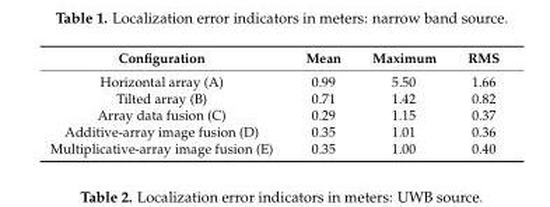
<table><thead><tr><td>Configuration</td><td>Mean</td><td>Maximum</td><td>RMS</td></tr></thead><tbody><tr><td>Horizontal array (A)</td><td>0.99</td><td>5.50</td><td>1.66</td></tr><tr><td>Tilted array (B)</td><td>0.71</td><td>1.42</td><td>0.82</td></tr><tr><td>Array data fusion (C)</td><td>0.29</td><td>1.15</td><td>0.37</td></tr><tr><td>Additive-array image fusion (D)</td><td>0.35</td><td>1.01</td><td>0.36</td></tr><tr><td>Multiplicative-array image fusion (E)</td><td>0.35</td><td>1.00</td><td>0.40</td></tr></tbody></table>